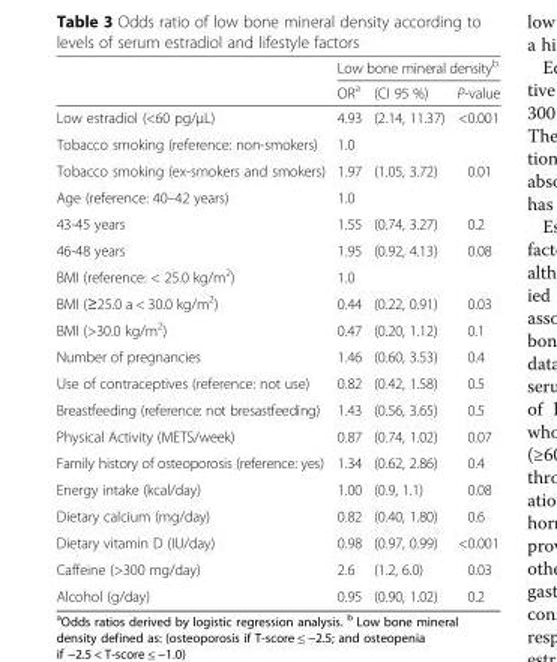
<table><thead><tr><td rowspan="2"></td><td colspan="3">Low bone mineral density<sup>b</sup></td></tr><tr><td>OR<sup>a</sup></td><td>(CI 95 %)</td><td>P-value</td></tr></thead><tbody><tr><td>Low estradiol (&lt;60 pg/μL)</td><td>4.93</td><td>(2.14, 11.37)</td><td>&lt;0.001</td></tr><tr><td>Tobacco smoking (reference: non-smokers)</td><td>1.0</td><td></td><td></td></tr><tr><td>Tobacco smoking (ex-smokers and smokers)</td><td>1.97</td><td>(1.05, 3.72)</td><td>0.01</td></tr><tr><td>Age (reference: 40–42 years)</td><td>1.0</td><td></td><td></td></tr><tr><td>43-45 years</td><td>1.55</td><td>(0.74, 3.27)</td><td>0.2</td></tr><tr><td>46-48 years</td><td>1.95</td><td>(0.92, 4.13)</td><td>0.08</td></tr><tr><td>BMI (reference: &lt; 25.0 kg/m<sup>2</sup>)</td><td>1.0</td><td></td><td></td></tr><tr><td>BMI (≥25.0 a &lt; 30.0 kg/m<sup>2</sup>)</td><td>0.44</td><td>(0.22, 0.91)</td><td>0.03</td></tr><tr><td>BMI (&gt;30.0 kg/m<sup>2</sup>)</td><td>0.47</td><td>(0.20, 1.12)</td><td>0.1</td></tr><tr><td>Number of pregnancies</td><td>1.46</td><td>(0.60, 3.53)</td><td>0.4</td></tr><tr><td>Use of contraceptives (reference: not use)</td><td>0.82</td><td>(0.42, 1.58)</td><td>0.5</td></tr><tr><td>Breastfeeding (reference: not bresastfeeding)</td><td>1.43</td><td>(0.56, 3.65)</td><td>0.5</td></tr><tr><td>Physical Activity (METS/week)</td><td>0.87</td><td>(0.74, 1.02)</td><td>0.07</td></tr><tr><td>Family history of osteoporosis (reference: yes)</td><td>1.34</td><td>(0.62, 2.86)</td><td>0.4</td></tr><tr><td>Energy intake (kcal/day)</td><td>1.00</td><td>(0.9, 1.1)</td><td>0.08</td></tr><tr><td>Dietary calcium (mg/day)</td><td>0.82</td><td>(0.40, 1.80)</td><td>0.6</td></tr><tr><td>Dietary vitamin D (IU/day)</td><td>0.98</td><td>(0.97, 0.99)</td><td>&lt;0.001</td></tr><tr><td>Caffeine (&gt;300 mg/day)</td><td>2.6</td><td>(1.2, 6.0)</td><td>0.03</td></tr><tr><td>Alcohol (g/day)</td><td>0.95</td><td>(0.90, 1.02)</td><td>0.2</td></tr></tbody></table>